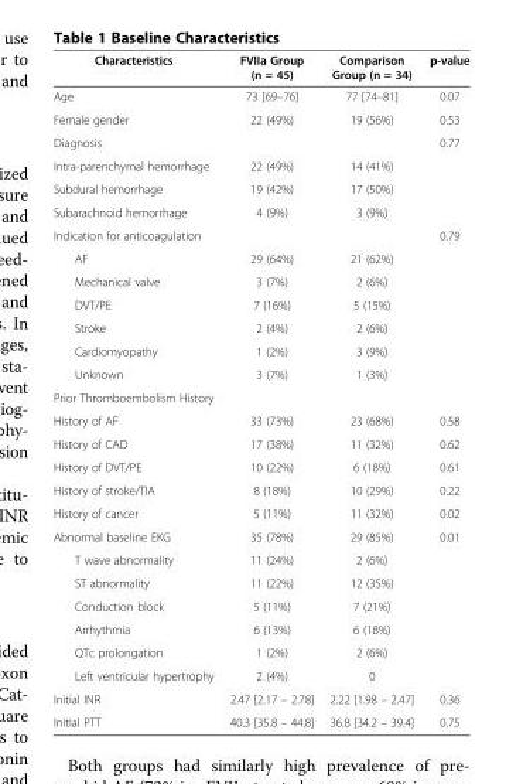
<table><thead><tr><td>Characteristics</td><td>FVIIa Group (n = 45)</td><td>Comparison Group (n = 34)</td><td>p-value</td></tr></thead><tbody><tr><td>Age</td><td>73 [69–76]</td><td>77 [74–81]</td><td>0.07</td></tr><tr><td>Female gender</td><td>22 (49%)</td><td>19 (56%)</td><td>0.53</td></tr><tr><td colspan="3">Diagnosis</td><td>0.77</td></tr><tr><td>Intra-parenchymal hemorrhage</td><td>22 (49%)</td><td>14 (41%)</td><td></td></tr><tr><td>Subdural hemorrhage</td><td>19 (42%)</td><td>17 (50%)</td><td></td></tr><tr><td>Subarachnoid hemorrhage</td><td>4 (9%)</td><td>3 (9%)</td><td></td></tr><tr><td colspan="3">Indication for anticoagulation</td><td>0.79</td></tr><tr><td>AF</td><td>29 (64%)</td><td>21 (62%)</td><td></td></tr><tr><td>Mechanical valve</td><td>3 (7%)</td><td>2 (6%)</td><td></td></tr><tr><td>DVT/PE</td><td>7 (16%)</td><td>5 (15%)</td><td></td></tr><tr><td>Stroke</td><td>2 (4%)</td><td>2 (6%)</td><td></td></tr><tr><td>Cardiomyopathy</td><td>1 (2%)</td><td>3 (9%)</td><td></td></tr><tr><td>Unknown</td><td>3 (7%)</td><td>1 (3%)</td><td></td></tr><tr><td colspan="4">Prior Thromboembolism History</td></tr><tr><td>History of AF</td><td>33 (73%)</td><td>23 (68%)</td><td>0.58</td></tr><tr><td>History of CAD</td><td>17 (38%)</td><td>11 (32%)</td><td>0.62</td></tr><tr><td>History of DVT/PE</td><td>10 (22%)</td><td>6 (18%)</td><td>0.61</td></tr><tr><td>History of stroke/TIA</td><td>8 (18%)</td><td>10 (29%)</td><td>0.22</td></tr><tr><td>History of cancer</td><td>5 (11%)</td><td>11 (32%)</td><td>0.02</td></tr><tr><td>Abnormal baseline EKG</td><td>35 (78%)</td><td>29 (85%)</td><td>0.01</td></tr><tr><td>T wave abnormality</td><td>11 (24%)</td><td>2 (6%)</td><td></td></tr><tr><td>ST abnormality</td><td>11 (22%)</td><td>12 (35%)</td><td></td></tr><tr><td>Conduction block</td><td>5 (11%)</td><td>7 (21%)</td><td></td></tr><tr><td>Arrhythmia</td><td>6 (13%)</td><td>6 (18%)</td><td></td></tr><tr><td>QTc prolongation</td><td>1 (2%)</td><td>2 (6%)</td><td></td></tr><tr><td>Left ventricular hypertrophy</td><td>2 (4%)</td><td>0</td><td></td></tr><tr><td>Initial INR</td><td>2.47 [2.17 – 2.78]</td><td>2.22 [1.98 – 2.47]</td><td>0.36</td></tr><tr><td>Initial PTT</td><td>40.3 [35.8 – 44.8]</td><td>36.8 [34.2 – 39.4]</td><td>0.75</td></tr></tbody></table>